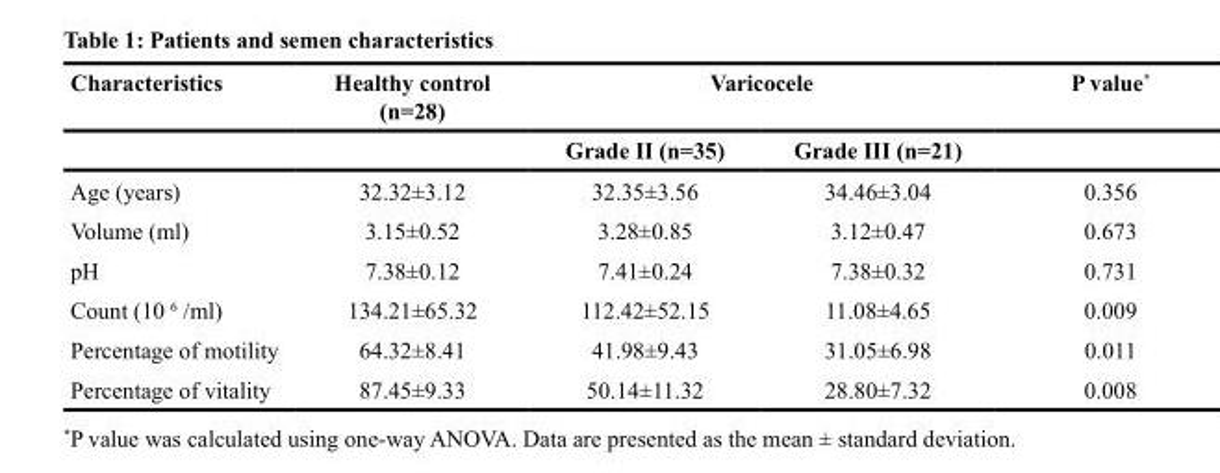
<table><thead><tr><td rowspan="2">Characteristics</td><td rowspan="2">Healthy control (n=28)</td><td colspan="2">Varicocele</td><td rowspan="2">P value*</td></tr><tr><td>Grade II (n=35)</td><td>Grade III (n=21)</td></tr></thead><tbody><tr><td>Age (years)</td><td>32.32±3.12</td><td>32.35±3.56</td><td>34.46±3.04</td><td>0.356</td></tr><tr><td>Volume (ml)</td><td>3.15±0.52</td><td>3.28±0.85</td><td>3.12±0.47</td><td>0.673</td></tr><tr><td>pH</td><td>7.38±0.12</td><td>7.41±0.24</td><td>7.38±0.32</td><td>0.731</td></tr><tr><td>Count (10 <sup>6</sup> /ml)</td><td>134.21±65.32</td><td>112.42±52.15</td><td>11.08±4.65</td><td>0.009</td></tr><tr><td>Percentage of motility</td><td>64.32±8.41</td><td>41.98±9.43</td><td>31.05±6.98</td><td>0.011</td></tr><tr><td>Percentage of vitality</td><td>87.45±9.33</td><td>50.14±11.32</td><td>28.80±7.32</td><td>0.008</td></tr></tbody></table>